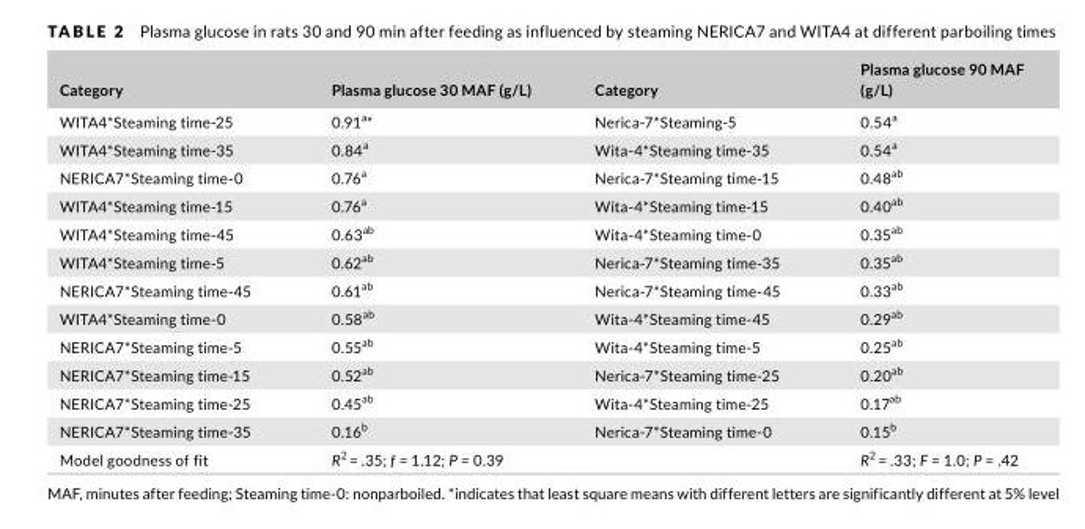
<table><thead><tr><td>Category</td><td>Plasma glucose 30 MAF (g/L)</td><td>Category</td><td>Plasma glucose 90 MAF (g/L)</td></tr></thead><tbody><tr><td>WITA4*Steaming time- 25</td><td>0.91<sup>a</sup>*</td><td>Nerica- 7*Steaming- 5</td><td>0.54<sup>a</sup></td></tr><tr><td>WITA4*Steaming time- 35</td><td>0.84<sup>a</sup></td><td>Wita- 4*Steaming time- 35</td><td>0.54<sup>a</sup></td></tr><tr><td>NERICA7*Steaming time- 0</td><td>0.76<sup>a</sup></td><td>Nerica- 7*Steaming time- 15</td><td>0.48<sup>ab</sup></td></tr><tr><td>WITA4*Steaming time- 15</td><td>0.76<sup>a</sup></td><td>Wita- 4*Steaming time- 15</td><td>0.40<sup>ab</sup></td></tr><tr><td>WITA4*Steaming time- 45</td><td>0.63<sup>ab</sup></td><td>Wita- 4*Steaming time- 0</td><td>0.35<sup>ab</sup></td></tr><tr><td>WITA4*Steaming time- 5</td><td>0.62<sup>ab</sup></td><td>Nerica- 7*Steaming time- 35</td><td>0.35<sup>ab</sup></td></tr><tr><td>NERICA7*Steaming time- 45</td><td>0.61<sup>ab</sup></td><td>Nerica- 7*Steaming time- 45</td><td>0.33<sup>ab</sup></td></tr><tr><td>WITA4*Steaming time- 0</td><td>0.58<sup>ab</sup></td><td>Wita- 4*Steaming time- 45</td><td>0.29<sup>ab</sup></td></tr><tr><td>NERICA7*Steaming time- 5</td><td>0.55<sup>ab</sup></td><td>Wita- 4*Steaming time- 5</td><td>0.25<sup>ab</sup></td></tr><tr><td>NERICA7*Steaming time- 15</td><td>0.52<sup>ab</sup></td><td>Nerica- 7*Steaming time- 25</td><td>0.20<sup>ab</sup></td></tr><tr><td>NERICA7*Steaming time- 25</td><td>0.45<sup>ab</sup></td><td>Wita- 4*Steaming time- 25</td><td>0.17<sup>ab</sup></td></tr><tr><td>NERICA7*Steaming time- 35</td><td>0.16<sup>b</sup></td><td>Nerica- 7*Steaming time- 0</td><td>0.15<sup>b</sup></td></tr><tr><td>Model goodness of fit</td><td>R<sup>2</sup> = .35; f = 1.12; P = 0.39</td><td></td><td>R<sup>2</sup> = .33; F = 1.0; P = .42</td></tr></tbody></table>